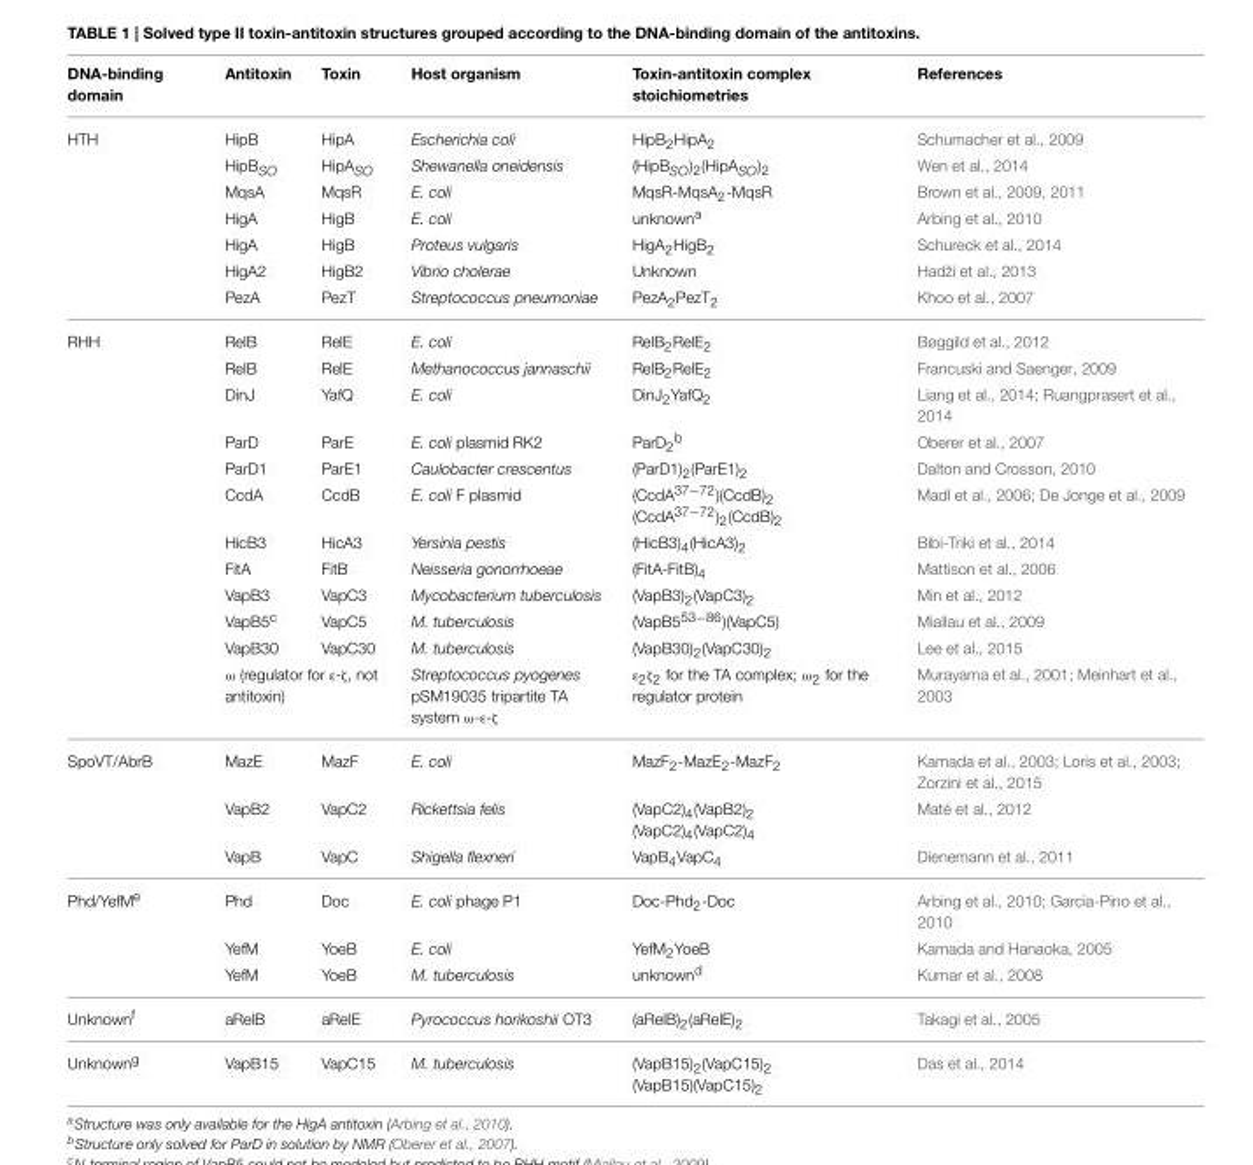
<table><thead><tr><td>DNA-binding domain</td><td>Antitoxin</td><td>Toxin</td><td>Host organism</td><td>Toxin-antitoxin complex stoichiometries</td><td>References</td></tr></thead><tbody><tr><td rowspan="7">HTH</td><td>HipB</td><td>HipA</td><td>Escherichia coli</td><td>HipB<sub>2</sub>HipA<sub>2</sub></td><td>Schumacher et al., 2009</td></tr><tr><td>HipB<sub>SO</sub></td><td>HipA<sub>SO</sub></td><td>Shewanella oneidensis</td><td>(HipB<sub>SO</sub>)<sub>2</sub>(HipA<sub>SO</sub>)<sub>2</sub></td><td>Wen et al., 2014</td></tr><tr><td>MqsA</td><td>MqsR</td><td>E. coli</td><td>MqsR-MqsA<sub>2</sub>-MqsR</td><td>Brown et al., 2009, 2011</td></tr><tr><td>HigA</td><td>HigB</td><td>E. coli</td><td>unknown<sup>a</sup></td><td>Arbing et al., 2010</td></tr><tr><td>HigA</td><td>HigB</td><td>Proteus vulgaris</td><td>HigA<sub>2</sub>HigB<sub>2</sub></td><td>Schureck et al., 2014</td></tr><tr><td>HigA2</td><td>HigB2</td><td>Vibrio cholerae</td><td>Unknown</td><td>Hadži et al., 2013</td></tr><tr><td>PezA</td><td>PezT</td><td>Streptococcus pneumoniae</td><td>PezA<sub>2</sub>PezT<sub>2</sub></td><td>Khoo et al., 2007</td></tr><tr><td rowspan="12">RHH</td><td>RelB</td><td>RelE</td><td>E. coli</td><td>RelB<sub>2</sub>RelE<sub>2</sub></td><td>Bøggild et al., 2012</td></tr><tr><td>RelB</td><td>RelE</td><td>Methanococcus jannaschii</td><td>RelB<sub>2</sub>RelE<sub>2</sub></td><td>Francuski and Saenger, 2009</td></tr><tr><td>DinJ</td><td>YafQ</td><td>E. coli</td><td>DinJ<sub>2</sub>YafQ<sub>2</sub></td><td>Liang et al., 2014; Ruangprasert et al., 2014</td></tr><tr><td>ParD</td><td>ParE</td><td>E. coli plasmid RK2</td><td>ParD<sub>2</sub><sup>b</sup></td><td>Oberer et al., 2007</td></tr><tr><td>ParD1</td><td>ParE1</td><td>Caulobacter crescentus</td><td>(ParD1)<sub>2</sub>(ParE1)<sub>2</sub></td><td>Dalton and Crosson, 2010</td></tr><tr><td>CcdA</td><td>CcdB</td><td>E. coli F plasmid</td><td>(CcdA<sup>37−72</sup>)(CcdB)<sub>2</sub> (CcdA<sup>37−72</sup>)<sub>2</sub>(CcdB)<sub>2</sub></td><td>Madl et al., 2006; De Jonge et al., 2009</td></tr><tr><td>HicB3</td><td>HicA3</td><td>Yersinia pestis</td><td>(HicB3)<sub>4</sub>(HicA3)<sub>2</sub></td><td>Bibi-Triki et al., 2014</td></tr><tr><td>FitA</td><td>FitB</td><td>Neisseria gonorrhoeae</td><td>(FitA-FitB)<sub>4</sub></td><td>Mattison et al., 2006</td></tr><tr><td>VapB3</td><td>VapC3</td><td>Mycobacterium tuberculosis</td><td>(VapB3)<sub>2</sub>(VapC3)<sub>2</sub></td><td>Min et al., 2012</td></tr><tr><td>VapB5<sup>c</sup></td><td>VapC5</td><td>M. tuberculosis</td><td>(VapB5<sup>53−86</sup>)(VapC5)</td><td>Miallau et al., 2009</td></tr><tr><td>VapB30</td><td>VapC30</td><td>M. tuberculosis</td><td>(VapB30)<sub>2</sub>(VapC30)<sub>2</sub></td><td>Lee et al., 2015</td></tr><tr><td colspan="2">ω (regulator for ε-ζ, not antitoxin)</td><td>Streptococcus pyogenes pSM19035 tripartite TA system ω-ε-ζ</td><td>ε<sub>2</sub>ζ<sub>2</sub> for the TA complex; ω<sub>2</sub> for the regulator protein</td><td>Murayama et al., 2001; Meinhart et al., 2003</td></tr><tr><td rowspan="3">SpoVT/AbrB</td><td>MazE</td><td>MazF</td><td>E. coli</td><td>MazF<sub>2</sub>-MazE<sub>2</sub>-MazF<sub>2</sub></td><td>Kamada et al., 2003; Loris et al., 2003; Zorzini et al., 2015</td></tr><tr><td>VapB2</td><td>VapC2</td><td>Rickettsia felis</td><td>(VapC2)<sub>4</sub>(VapB2)<sub>2</sub> (VapC2)<sub>4</sub>(VapC2)<sub>4</sub></td><td>Maté et al., 2012</td></tr><tr><td>VapB</td><td>VapC</td><td>Shigella flexneri</td><td>VapB<sub>4</sub>VapC<sub>4</sub></td><td>Dienemann et al., 2011</td></tr><tr><td rowspan="3">Phd/YefM<sup>e</sup></td><td>Phd</td><td>Doc</td><td>E. coli phage P1</td><td>Doc-Phd<sub>2</sub>-Doc</td><td>Arbing et al., 2010; Garcia-Pino et al., 2010</td></tr><tr><td>YefM</td><td>YoeB</td><td>E. coli</td><td>YefM<sub>2</sub>YoeB</td><td>Kamada and Hanaoka, 2005</td></tr><tr><td>YefM</td><td>YoeB</td><td>M. tuberculosis</td><td>unknown<sup>d</sup></td><td>Kumar et al., 2008</td></tr><tr><td>Unknown<sup>f</sup></td><td>aRelB</td><td>aRelE</td><td>Pyrococcus horikoshii OT3</td><td>(aRelB)<sub>2</sub>(aRelE)<sub>2</sub></td><td>Takagi et al., 2005</td></tr><tr><td>Unknown<sup>g</sup></td><td>VapB15</td><td>VapC15</td><td>M. tuberculosis</td><td>(VapB15)<sub>2</sub>(VapC15)<sub>2</sub> (VapB15)(VapC15)<sub>2</sub></td><td>Das et al., 2014</td></tr></tbody></table>